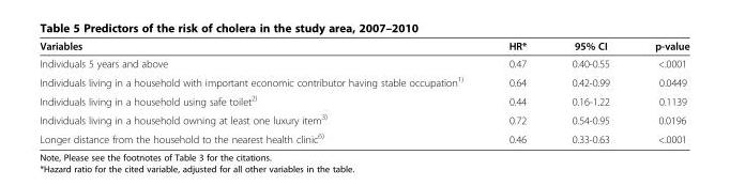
<table><thead><tr><td>Variables</td><td>HR*</td><td>95% CI</td><td>p-value</td></tr></thead><tbody><tr><td>Individuals 5 years and above</td><td>0.47</td><td>0.40-0.55</td><td>&lt;.0001</td></tr><tr><td>Individuals living in a household with important economic contributor having stable occupation<sup>1)</sup></td><td>0.64</td><td>0.42-0.99</td><td>0.0449</td></tr><tr><td>Individuals living in a household using safe toilet<sup>2)</sup></td><td>0.44</td><td>0.16-1.22</td><td>0.1139</td></tr><tr><td>Individuals living in a household owning at least one luxury item<sup>3)</sup></td><td>0.72</td><td>0.54-0.95</td><td>0.0196</td></tr><tr><td>Longer distance from the household to the nearest health clinic<sup>6)</sup></td><td>0.46</td><td>0.33-0.63</td><td>&lt;.0001</td></tr></tbody></table>